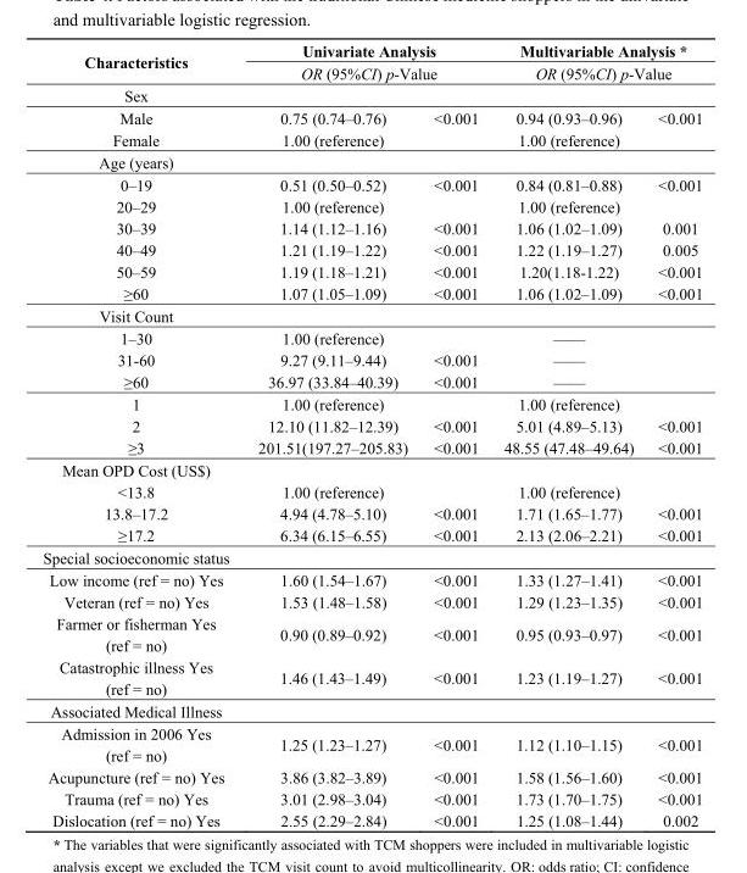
<table><thead><tr><td rowspan="3">Characteristics Sex</td><td rowspan="2" colspan="2">Univariate Analysis OR (95%CI) p-Value</td><td rowspan="2" colspan="2">Multivariable Analysis * OR (95%CI) p-Value</td></tr><tr></tr><tr><td></td><td></td><td></td><td></td></tr></thead><tbody><tr><td>Male</td><td>0.75 (0.74–0.76)</td><td>&lt;0.001</td><td>0.94 (0.93–0.96)</td><td>&lt;0.001</td></tr><tr><td>Female</td><td>1.00 (reference)</td><td></td><td>1.00 (reference)</td><td></td></tr><tr><td colspan="5">Age (years)</td></tr><tr><td>0–19</td><td>0.51 (0.50–0.52)</td><td>&lt;0.001</td><td>0.84 (0.81–0.88)</td><td>&lt;0.001</td></tr><tr><td>20–29</td><td>1.00 (reference)</td><td></td><td>1.00 (reference)</td><td></td></tr><tr><td>30–39</td><td>1.14 (1.12–1.16)</td><td>&lt;0.001</td><td>1.06 (1.02–1.09)</td><td>0.001</td></tr><tr><td>40–49</td><td>1.21 (1.19–1.22)</td><td>&lt;0.001</td><td>1.22 (1.19–1.27)</td><td>0.005</td></tr><tr><td>50–59</td><td>1.19 (1.18–1.21)</td><td>&lt;0.001</td><td>1.20(1.18-1.22)</td><td>&lt;0.001</td></tr><tr><td>≥60</td><td>1.07 (1.05–1.09)</td><td>&lt;0.001</td><td>1.06 (1.02–1.09)</td><td>&lt;0.001</td></tr><tr><td colspan="5">Visit Count</td></tr><tr><td>1–30</td><td>1.00 (reference)</td><td></td><td>——</td><td></td></tr><tr><td>31-60</td><td>9.27 (9.11–9.44)</td><td>&lt;0.001</td><td>——</td><td></td></tr><tr><td>≥60</td><td>36.97 (33.84–40.39)</td><td>&lt;0.001</td><td>——</td><td></td></tr><tr><td>1</td><td>1.00 (reference)</td><td></td><td>1.00 (reference)</td><td></td></tr><tr><td>2</td><td>12.10 (11.82–12.39)</td><td>&lt;0.001</td><td>5.01 (4.89–5.13)</td><td>&lt;0.001</td></tr><tr><td>≥3</td><td>201.51(197.27–205.83)</td><td>&lt;0.001</td><td>48.55 (47.48–49.64)</td><td>&lt;0.001</td></tr><tr><td colspan="5">Mean OPD Cost (US$)</td></tr><tr><td>&lt;13.8</td><td>1.00 (reference)</td><td></td><td>1.00 (reference)</td><td></td></tr><tr><td>13.8–17.2</td><td>4.94 (4.78–5.10)</td><td>&lt;0.001</td><td>1.71 (1.65–1.77)</td><td>&lt;0.001</td></tr><tr><td>≥17.2</td><td>6.34 (6.15–6.55)</td><td>&lt;0.001</td><td>2.13 (2.06–2.21)</td><td>&lt;0.001</td></tr><tr><td colspan="5">Special socioeconomic status</td></tr><tr><td>Low income (ref = no) Yes</td><td>1.60 (1.54–1.67)</td><td>&lt;0.001</td><td>1.33 (1.27–1.41)</td><td>&lt;0.001</td></tr><tr><td>Veteran (ref = no) Yes</td><td>1.53 (1.48–1.58)</td><td>&lt;0.001</td><td>1.29 (1.23–1.35)</td><td>&lt;0.001</td></tr><tr><td>Farmer or fisherman Yes (ref = no)</td><td>0.90 (0.89–0.92)</td><td>&lt;0.001</td><td>0.95 (0.93–0.97)</td><td>&lt;0.001</td></tr><tr><td>Catastrophic illness Yes (ref = no)</td><td>1.46 (1.43–1.49)</td><td>&lt;0.001</td><td>1.23 (1.19–1.27)</td><td>&lt;0.001</td></tr><tr><td colspan="5">Associated Medical Illness</td></tr><tr><td>Admission in 2006 Yes (ref = no)</td><td>1.25 (1.23–1.27)</td><td>&lt;0.001</td><td>1.12 (1.10–1.15)</td><td>&lt;0.001</td></tr><tr><td>Acupuncture (ref = no) Yes</td><td>3.86 (3.82–3.89)</td><td>&lt;0.001</td><td>1.58 (1.56–1.60)</td><td>&lt;0.001</td></tr><tr><td>Trauma (ref = no) Yes</td><td>3.01 (2.98–3.04)</td><td>&lt;0.001</td><td>1.73 (1.70–1.75)</td><td>&lt;0.001</td></tr><tr><td>Dislocation (ref = no) Yes</td><td>2.55 (2.29–2.84)</td><td>&lt;0.001</td><td>1.25 (1.08–1.44)</td><td>0.002</td></tr></tbody></table>